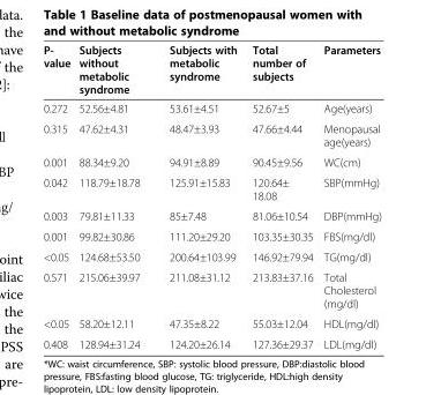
<table><thead><tr><td>P- value</td><td>Subjects without metabolic syndrome</td><td>Subjects with metabolic syndrome</td><td>Total number of subjects</td><td>Parameters</td></tr></thead><tbody><tr><td>0.272</td><td>52.56±4.81</td><td>53.61±4.51</td><td>52.67±5</td><td>Age(years)</td></tr><tr><td>0.315</td><td>47.62±4.31</td><td>48.47±3.93</td><td>47.66±4.44</td><td>Menopausal age(years)</td></tr><tr><td>0.001</td><td>88.34±9.20</td><td>94.91±8.89</td><td>90.45±9.56</td><td>WC(cm)</td></tr><tr><td>0.042</td><td>118.79±18.78</td><td>125.91±15.83</td><td>120.64± 18.08</td><td>SBP(mmHg)</td></tr><tr><td>0.003</td><td>79.81±11.33</td><td>85±7.48</td><td>81.06±10.54</td><td>DBP(mmHg)</td></tr><tr><td>0.001</td><td>99.82±30.86</td><td>111.20±29.20</td><td>103.35±30.35</td><td>FBS(mg/dl)</td></tr><tr><td>&lt;0.05</td><td>124.68±53.50</td><td>200.64±103.99</td><td>146.92±79.94</td><td>TG(mg/dl)</td></tr><tr><td>0.571</td><td>215.06±39.97</td><td>211.08±31.12</td><td>213.83±37.16</td><td>Total Cholesterol (mg/dl)</td></tr><tr><td>&lt;0.05</td><td>58.20±12.11</td><td>47.35±8.22</td><td>55.03±12.04</td><td>HDL(mg/dl)</td></tr><tr><td>0.408</td><td>128.94±31.24</td><td>124.20±26.14</td><td>127.36±29.37</td><td>LDL(mg/dl)</td></tr></tbody></table>